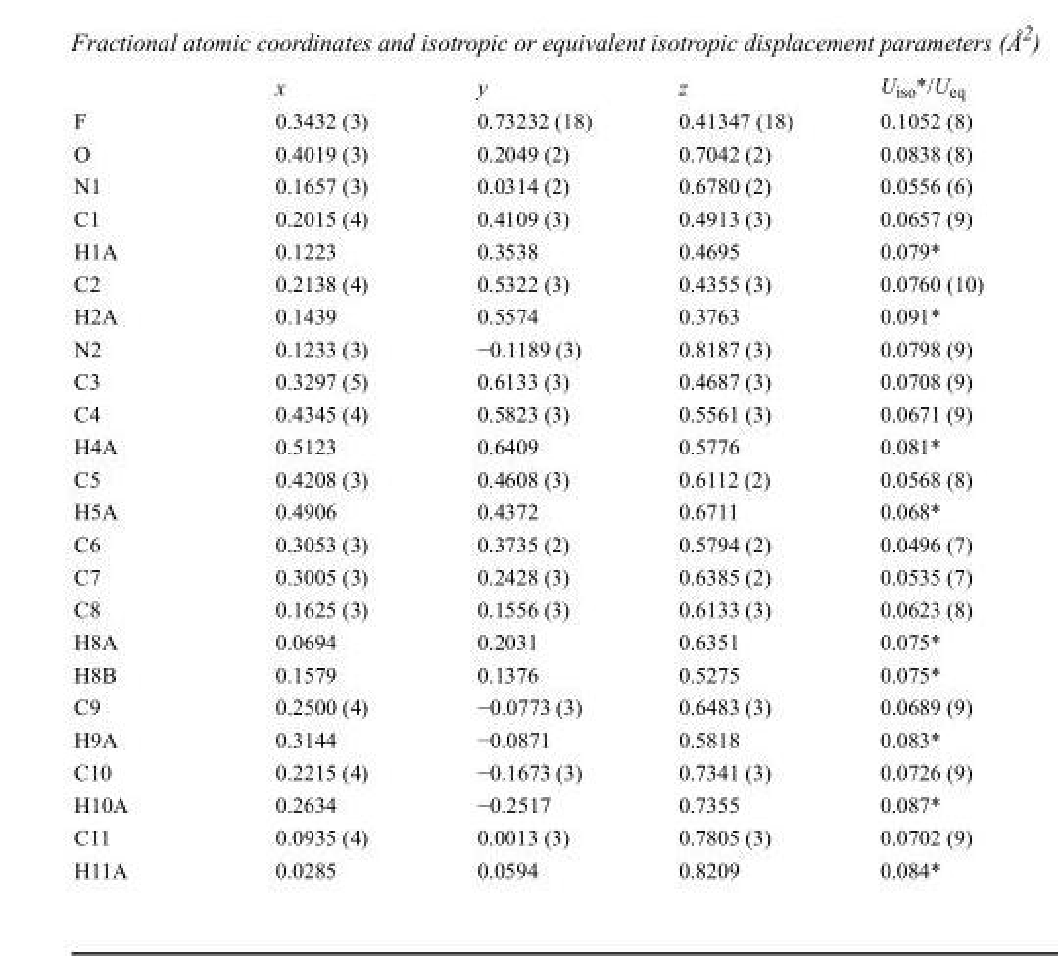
<table><thead><tr><td></td><td>x</td><td>y</td><td>z</td><td>U<sub>iso</sub>*/U<sub>eq</sub></td></tr></thead><tbody><tr><td>F</td><td>0.3432 (3)</td><td>0.73232 (18)</td><td>0.41347 (18)</td><td>0.1052 (8)</td></tr><tr><td>O</td><td>0.4019 (3)</td><td>0.2049 (2)</td><td>0.7042 (2)</td><td>0.0838 (8)</td></tr><tr><td>N1</td><td>0.1657 (3)</td><td>0.0314 (2)</td><td>0.6780 (2)</td><td>0.0556 (6)</td></tr><tr><td>C1</td><td>0.2015 (4)</td><td>0.4109 (3)</td><td>0.4913 (3)</td><td>0.0657 (9)</td></tr><tr><td>H1A</td><td>0.1223</td><td>0.3538</td><td>0.4695</td><td>0.079*</td></tr><tr><td>C2</td><td>0.2138 (4)</td><td>0.5322 (3)</td><td>0.4355 (3)</td><td>0.0760 (10)</td></tr><tr><td>H2A</td><td>0.1439</td><td>0.5574</td><td>0.3763</td><td>0.091*</td></tr><tr><td>N2</td><td>0.1233 (3)</td><td>−0.1189 (3)</td><td>0.8187 (3)</td><td>0.0798 (9)</td></tr><tr><td>C3</td><td>0.3297 (5)</td><td>0.6133 (3)</td><td>0.4687 (3)</td><td>0.0708 (9)</td></tr><tr><td>C4</td><td>0.4345 (4)</td><td>0.5823 (3)</td><td>0.5561 (3)</td><td>0.0671 (9)</td></tr><tr><td>H4A</td><td>0.5123</td><td>0.6409</td><td>0.5776</td><td>0.081*</td></tr><tr><td>C5</td><td>0.4208 (3)</td><td>0.4608 (3)</td><td>0.6112 (2)</td><td>0.0568 (8)</td></tr><tr><td>H5A</td><td>0.4906</td><td>0.4372</td><td>0.6711</td><td>0.068*</td></tr><tr><td>C6</td><td>0.3053 (3)</td><td>0.3735 (2)</td><td>0.5794 (2)</td><td>0.0496 (7)</td></tr><tr><td>C7</td><td>0.3005 (3)</td><td>0.2428 (3)</td><td>0.6385 (2)</td><td>0.0535 (7)</td></tr><tr><td>C8</td><td>0.1625 (3)</td><td>0.1556 (3)</td><td>0.6133 (3)</td><td>0.0623 (8)</td></tr><tr><td>H8A</td><td>0.0694</td><td>0.2031</td><td>0.6351</td><td>0.075*</td></tr><tr><td>H8B</td><td>0.1579</td><td>0.1376</td><td>0.5275</td><td>0.075*</td></tr><tr><td>C9</td><td>0.2500 (4)</td><td>−0.0773 (3)</td><td>0.6483 (3)</td><td>0.0689 (9)</td></tr><tr><td>H9A</td><td>0.3144</td><td>−0.0871</td><td>0.5818</td><td>0.083*</td></tr><tr><td>C10</td><td>0.2215 (4)</td><td>−0.1673 (3)</td><td>0.7341 (3)</td><td>0.0726 (9)</td></tr><tr><td>H10A</td><td>0.2634</td><td>−0.2517</td><td>0.7355</td><td>0.087*</td></tr><tr><td>C11</td><td>0.0935 (4)</td><td>0.0013 (3)</td><td>0.7805 (3)</td><td>0.0702 (9)</td></tr><tr><td>H11A</td><td>0.0285</td><td>0.0594</td><td>0.8209</td><td>0.084*</td></tr></tbody></table>